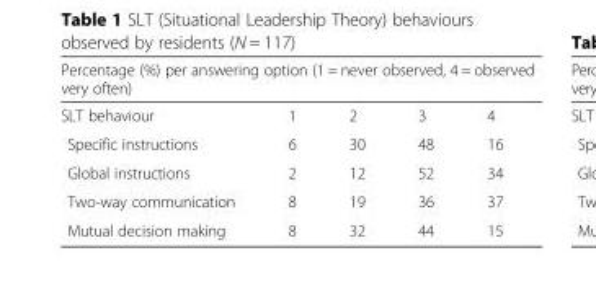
<table><thead><tr><td colspan="5">Percentage (%) per answering option (1 = never observed, 4 = observed very often)</td></tr><tr><td>SLT behaviour</td><td>1</td><td>2</td><td>3</td><td>4</td></tr></thead><tbody><tr><td>Specific instructions</td><td>6</td><td>30</td><td>48</td><td>16</td></tr><tr><td>Global instructions</td><td>2</td><td>12</td><td>52</td><td>34</td></tr><tr><td>Two-way communication</td><td>8</td><td>19</td><td>36</td><td>37</td></tr><tr><td>Mutual decision making</td><td>8</td><td>32</td><td>44</td><td>15</td></tr></tbody></table>